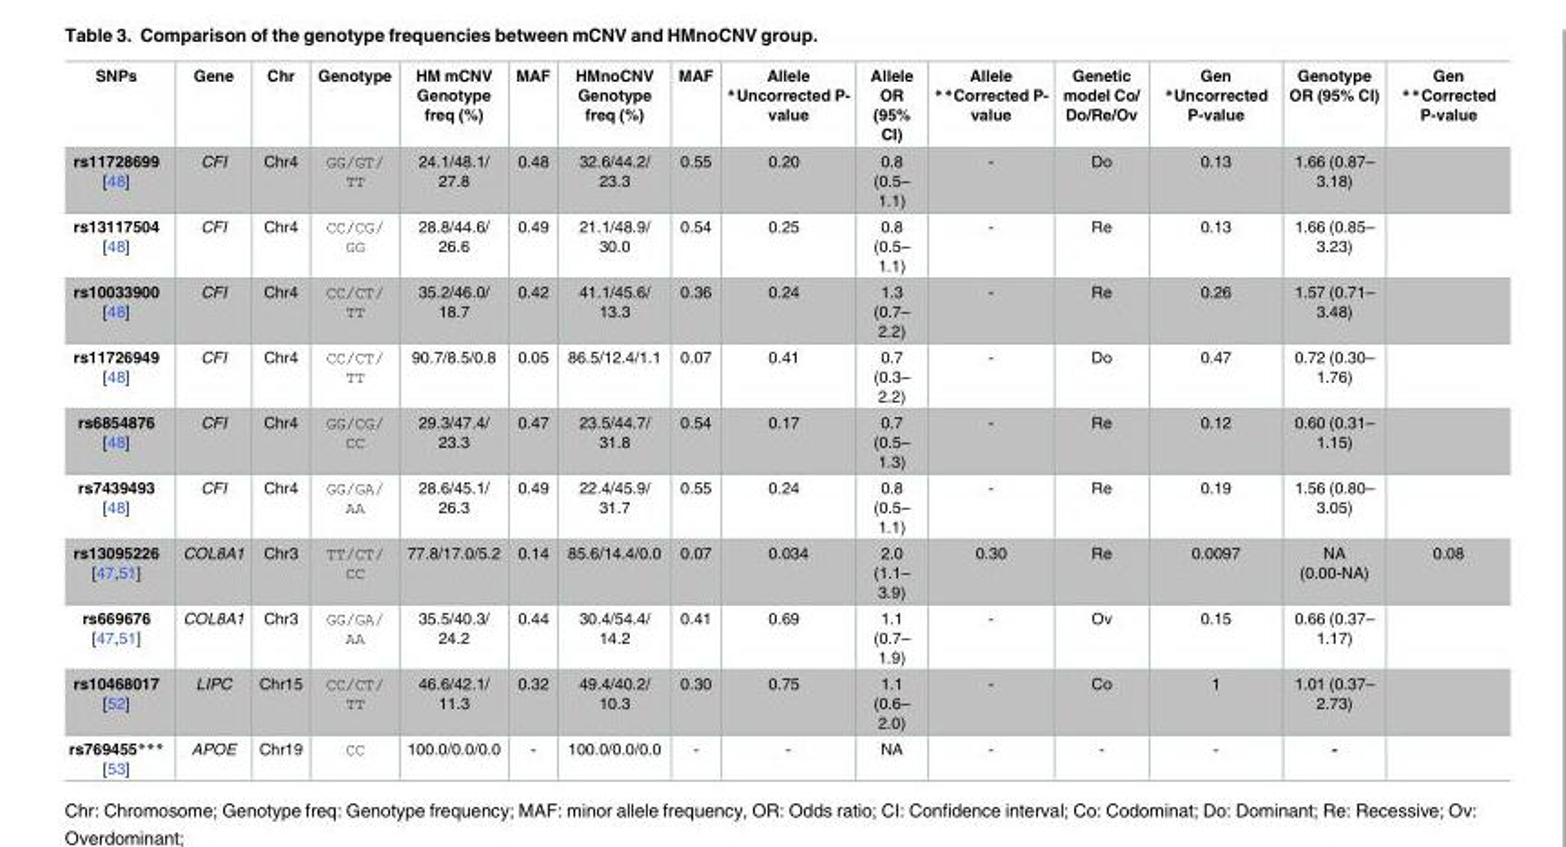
<table><thead><tr><td>SNPs</td><td>Gene</td><td>Chr</td><td>Genotype</td><td>HM mCNV Genotype freq (%)</td><td>MAF</td><td>HMnoCNV Genotype freq (%)</td><td>MAF</td><td>Allele *Uncorrected P- value</td><td>Allele OR (95% CI)</td><td>Allele **Corrected P- value</td><td>Genetic model Co/ Do/Re/Ov</td><td>Gen *Uncorrected P-value</td><td>Genotype OR (95% CI)</td><td>Gen **Corrected P-value</td></tr></thead><tbody><tr><td>rs11728699 [48]</td><td>CFI</td><td>Chr4</td><td>GG/GT/ TT</td><td>24.1/48.1/ 27.8</td><td>0.48</td><td>32.6/44.2/ 23.3</td><td>0.55</td><td>0.20</td><td>0.8 (0.5– 1.1)</td><td>-</td><td>Do</td><td>0.13</td><td>1.66 (0.87– 3.18)</td><td></td></tr><tr><td>rs13117504 [48]</td><td>CFI</td><td>Chr4</td><td>CC/CG/ GG</td><td>28.8/44.6/ 26.6</td><td>0.49</td><td>21.1/48.9/ 30.0</td><td>0.54</td><td>0.25</td><td>0.8 (0.5– 1.1)</td><td>-</td><td>Re</td><td>0.13</td><td>1.66 (0.85– 3.23)</td><td></td></tr><tr><td>rs10033900 [48]</td><td>CFI</td><td>Chr4</td><td>CC/CT/ TT</td><td>35.2/46.0/ 18.7</td><td>0.42</td><td>41.1/45.6/ 13.3</td><td>0.36</td><td>0.24</td><td>1.3 (0.7– 2.2)</td><td>-</td><td>Re</td><td>0.26</td><td>1.57 (0.71– 3.48)</td><td></td></tr><tr><td>rs11726949 [48]</td><td>CFI</td><td>Chr4</td><td>CC/CT/ TT</td><td>90.7/8.5/0.8</td><td>0.05</td><td>86.5/12.4/1.1</td><td>0.07</td><td>0.41</td><td>0.7 (0.3– 2.2)</td><td>-</td><td>Do</td><td>0.47</td><td>0.72 (0.30– 1.76)</td><td></td></tr><tr><td>rs6854876 [48]</td><td>CFI</td><td>Chr4</td><td>GG/CG/ CC</td><td>29.3/47.4/ 23.3</td><td>0.47</td><td>23.5/44.7/ 31.8</td><td>0.54</td><td>0.17</td><td>0.7 (0.5– 1.3)</td><td>-</td><td>Re</td><td>0.12</td><td>0.60 (0.31– 1.15)</td><td></td></tr><tr><td>rs7439493 [48]</td><td>CFI</td><td>Chr4</td><td>GG/GA/ AA</td><td>28.6/45.1/ 26.3</td><td>0.49</td><td>22.4/45.9/ 31.7</td><td>0.55</td><td>0.24</td><td>0.8 (0.5– 1.1)</td><td>-</td><td>Re</td><td>0.19</td><td>1.56 (0.80– 3.05)</td><td></td></tr><tr><td>rs13095226 [47,51]</td><td>COL8A1</td><td>Chr3</td><td>TT/CT/ CC</td><td>77.8/17.0/5.2</td><td>0.14</td><td>85.6/14.4/0.0</td><td>0.07</td><td>0.034</td><td>2.0 (1.1– 3.9)</td><td>0.30</td><td>Re</td><td>0.0097</td><td>NA (0.00-NA)</td><td>0.08</td></tr><tr><td>rs669676 [47,51]</td><td>COL8A1</td><td>Chr3</td><td>GG/GA/ AA</td><td>35.5/40.3/ 24.2</td><td>0.44</td><td>30.4/54.4/ 14.2</td><td>0.41</td><td>0.69</td><td>1.1 (0.7– 1.9)</td><td>-</td><td>Ov</td><td>0.15</td><td>0.66 (0.37– 1.17)</td><td></td></tr><tr><td>rs10468017 [52]</td><td>LIPC</td><td>Chr15</td><td>CC/CT/ TT</td><td>46.6/42.1/ 11.3</td><td>0.32</td><td>49.4/40.2/ 10.3</td><td>0.30</td><td>0.75</td><td>1.1 (0.6– 2.0)</td><td>-</td><td>Co</td><td>1</td><td>1.01 (0.37– 2.73)</td><td></td></tr><tr><td>rs769455*** [53]</td><td>APOE</td><td>Chr19</td><td>CC</td><td>100.0/0.0/0.0</td><td>-</td><td>100.0/0.0/0.0</td><td>-</td><td>-</td><td>NA</td><td>-</td><td>-</td><td>-</td><td>-</td><td></td></tr></tbody></table>